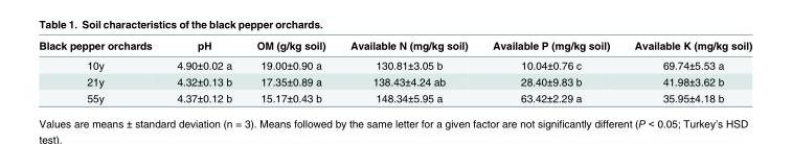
<table><thead><tr><td>Black pepper orchards</td><td>pH</td><td>OM (g/kg soil)</td><td>Available N (mg/kg soil)</td><td>Available P (mg/kg soil)</td><td>Available K (mg/kg soil)</td></tr></thead><tbody><tr><td>10y</td><td>4.90±0.02 a</td><td>19.00±0.90 a</td><td>130.81±3.05 b</td><td>10.04±0.76 c</td><td>69.74±5.53 a</td></tr><tr><td>21y</td><td>4.32±0.13 b</td><td>17.35±0.89 a</td><td>138.43±4.24 ab</td><td>28.40±9.83 b</td><td>41.98±3.62 b</td></tr><tr><td>55y</td><td>4.37±0.12 b</td><td>15.17±0.43 b</td><td>148.34±5.95 a</td><td>63.42±2.29 a</td><td>35.95±4.18 b</td></tr></tbody></table>